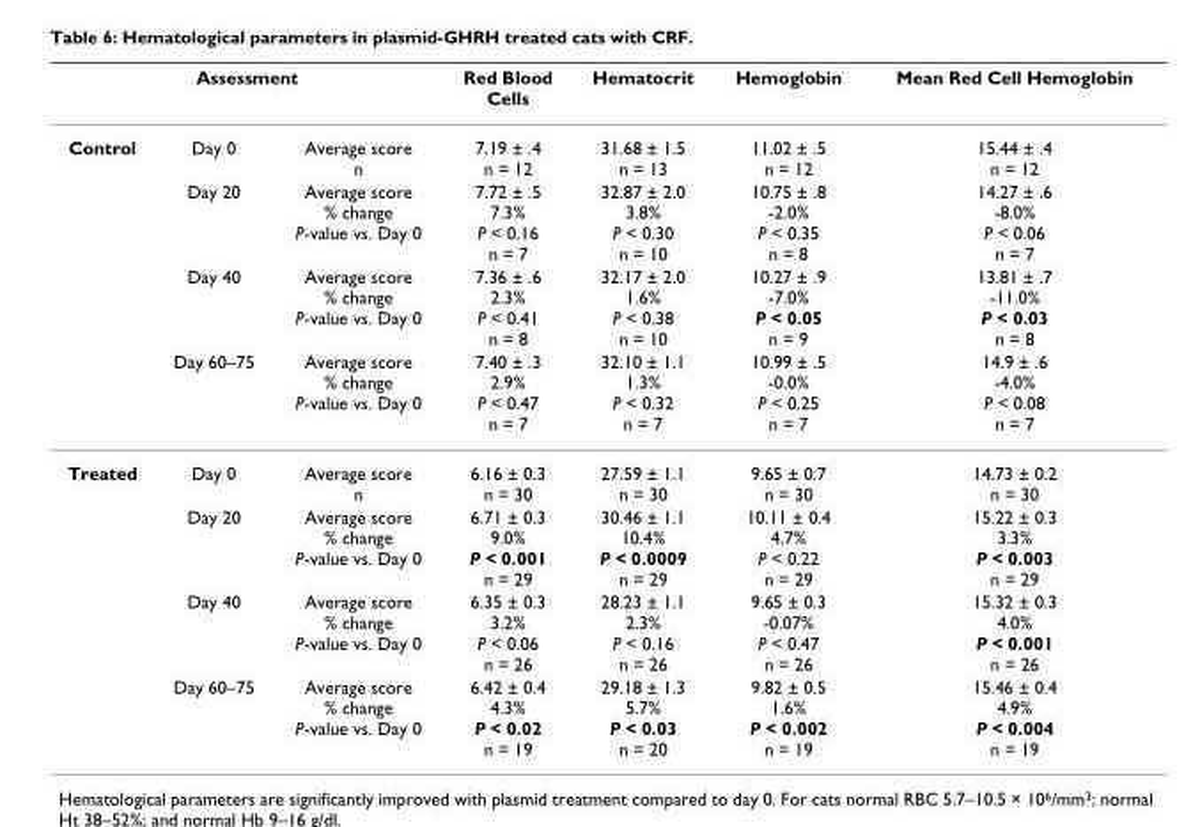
<table><thead><tr><td colspan="3">Assessment</td><td rowspan="2">Red Blood Cells 7.19 ± .4 n = 12</td><td rowspan="2">Hematocrit 31.68 ± 1.5 n = 13</td><td rowspan="2">Hemoglobin 11.02 ± .5 n = 12</td><td rowspan="2">Mean Red Cell Hemoglobin 15.44 ± .4 n = 12</td></tr><tr><td>Control</td><td>Day 0</td><td>Average score n</td></tr></thead><tbody><tr><td></td><td>Day 20</td><td>Average score % change P-value vs. Day 0</td><td>7.72 ± .5 7.3% P &lt; 0.16 n = 7</td><td>32.87 ± 2.0 3.8% P &lt; 0.30 n = 10</td><td>10.75 ± .8 -2.0% P &lt; 0.35 n = 8</td><td>14.27 ± .6 -8.0% P &lt; 0.06 n = 7</td></tr><tr><td></td><td>Day 40</td><td>Average score % change P-value vs. Day 0</td><td>7.36 ± .6 2.3% P &lt; 0.41 n = 8</td><td>32.17 ± 2.0 1.6% P &lt; 0.38 n = 10</td><td>10.27 ± .9 -7.0% P &lt; 0.05 n = 9</td><td>13.81 ± .7 -11.0% P &lt; 0.03 n = 8</td></tr><tr><td></td><td>Day 60–75</td><td>Average score % change P-value vs. Day 0</td><td>7.40 ± .3 2.9% P &lt; 0.47 n = 7</td><td>32.10 ± 1.1 1.3% P &lt; 0.32 n = 7</td><td>10.99 ± .5 -0.0% P &lt; 0.25 n = 7</td><td>14.9 ± .6 -4.0% P &lt; 0.08 n = 7</td></tr><tr><td rowspan="4">Treated</td><td>Day 0</td><td>Average score n</td><td>6.16 ± 0.3 n = 30</td><td>27.59 ± 1.1 n = 30</td><td>9.65 ± 0.7 n = 30</td><td>14.73 ± 0.2 n = 30</td></tr><tr><td>Day 20</td><td>Average score % change P-value vs. Day 0</td><td>6.71 ± 0.3 9.0% P &lt; 0.001 n = 29</td><td>30.46 ± 1.1 10.4% P &lt; 0.0009 n = 29</td><td>10.11 ± 0.4 4.7% P &lt; 0.22 n = 29</td><td>15.22 ± 0.3 3.3% P &lt; 0.003 n = 29</td></tr><tr><td>Day 40</td><td>Average score % change P-value vs. Day 0</td><td>6.35 ± 0.3 3.2% P &lt; 0.06 n = 26</td><td>28.23 ± 1.1 2.3% P &lt; 0.16 n = 26</td><td>9.65 ± 0.3 -0.07% P &lt; 0.47 n = 26</td><td>15.32 ± 0.3 4.0% P &lt; 0.001 n = 26</td></tr><tr><td>Day 60–75</td><td>Average score % change P-value vs. Day 0</td><td>6.42 ± 0.4 4.3% P &lt; 0.02 n = 19</td><td>29.18 ± 1.3 5.7% P &lt; 0.03 n = 20</td><td>9.82 ± 0.5 1.6% P &lt; 0.002 n = 19</td><td>15.46 ± 0.4 4.9% P &lt; 0.004 n = 19</td></tr></tbody></table>